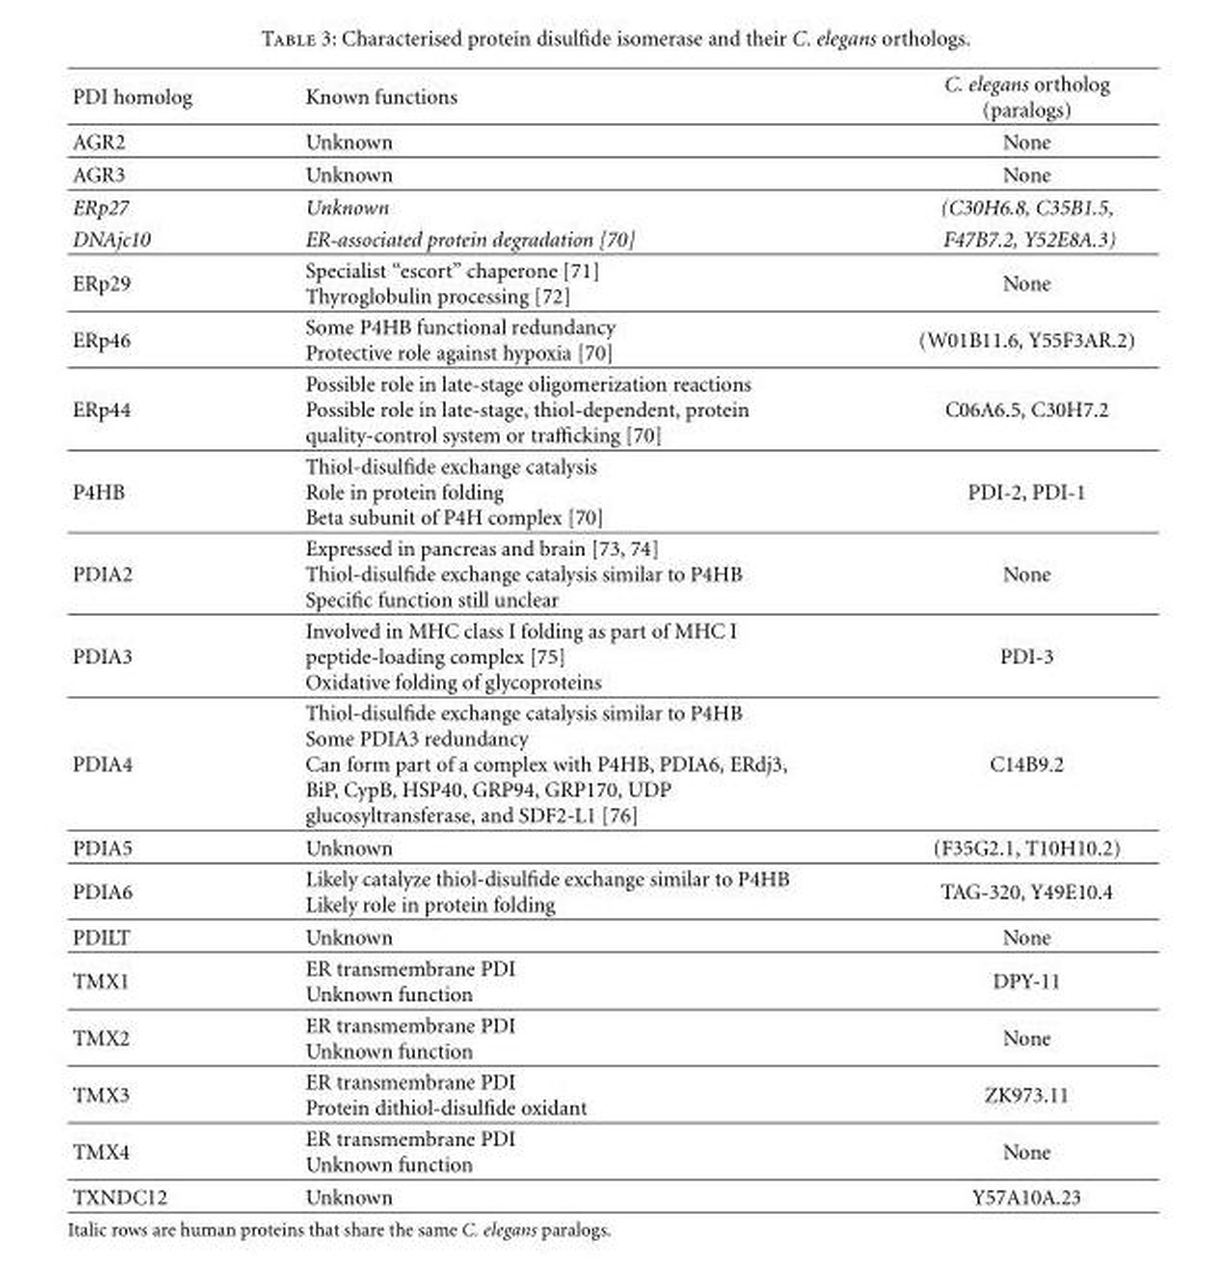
<table><thead><tr><td>PDI homolog</td><td>Known functions</td><td>C. elegans ortholog (paralogs)</td></tr></thead><tbody><tr><td>AGR2</td><td>Unknown</td><td>None</td></tr><tr><td>AGR3</td><td>Unknown</td><td>None</td></tr><tr><td>ERp27</td><td>Unknown</td><td>(C30H6.8, C35B1.5,</td></tr><tr><td>DNAjc10</td><td>ER-associated protein degradation [70]</td><td>F47B7.2, Y52E8A.3)</td></tr><tr><td>ERp29</td><td>Specialist “escort” chaperone [71] Thyroglobulin processing [72]</td><td>None</td></tr><tr><td>ERp46</td><td>Some P4HB functional redundancy Protective role against hypoxia [70]</td><td>(W01B11.6, Y55F3AR.2)</td></tr><tr><td>ERp44</td><td>Possible role in late-stage oligomerization reactions Possible role in late-stage, thiol-dependent, protein quality-control system or trafficking [70]</td><td>C06A6.5, C30H7.2</td></tr><tr><td>P4HB</td><td>Thiol-disulfide exchange catalysis Role in protein folding Beta subunit of P4H complex [70]</td><td>PDI-2, PDI-1</td></tr><tr><td>PDIA2</td><td>Expressed in pancreas and brain [73, 74] Thiol-disulfide exchange catalysis similar to P4HB Specific function still unclear</td><td>None</td></tr><tr><td>PDIA3</td><td>Involved in MHC class I folding as part of MHC I peptide-loading complex [75] Oxidative folding of glycoproteins</td><td>PDI-3</td></tr><tr><td>PDIA4</td><td>Thiol-disulfide exchange catalysis similar to P4HB Some PDIA3 redundancy Can form part of a complex with P4HB, PDIA6, ERdj3, BiP, CypB, HSP40, GRP94, GRP170, UDP glucosyltransferase, and SDF2-L1 [76]</td><td>C14B9.2</td></tr><tr><td>PDIA5</td><td>Unknown</td><td>(F35G2.1, T10H10.2)</td></tr><tr><td>PDIA6</td><td>Likely catalyze thiol-disulfide exchange similar to P4HB Likely role in protein folding</td><td>TAG-320, Y49E10.4</td></tr><tr><td>PDILT</td><td>Unknown</td><td>None</td></tr><tr><td>TMX1</td><td>ER transmembrane PDI Unknown function</td><td>DPY-11</td></tr><tr><td>TMX2</td><td>ER transmembrane PDI Unknown function</td><td>None</td></tr><tr><td>TMX3</td><td>ER transmembrane PDI Protein dithiol-disulfide oxidant</td><td>ZK973.11</td></tr><tr><td>TMX4</td><td>ER transmembrane PDI Unknown function</td><td>None</td></tr><tr><td>TXNDC12</td><td>Unknown</td><td>Y57A10A.23</td></tr></tbody></table>